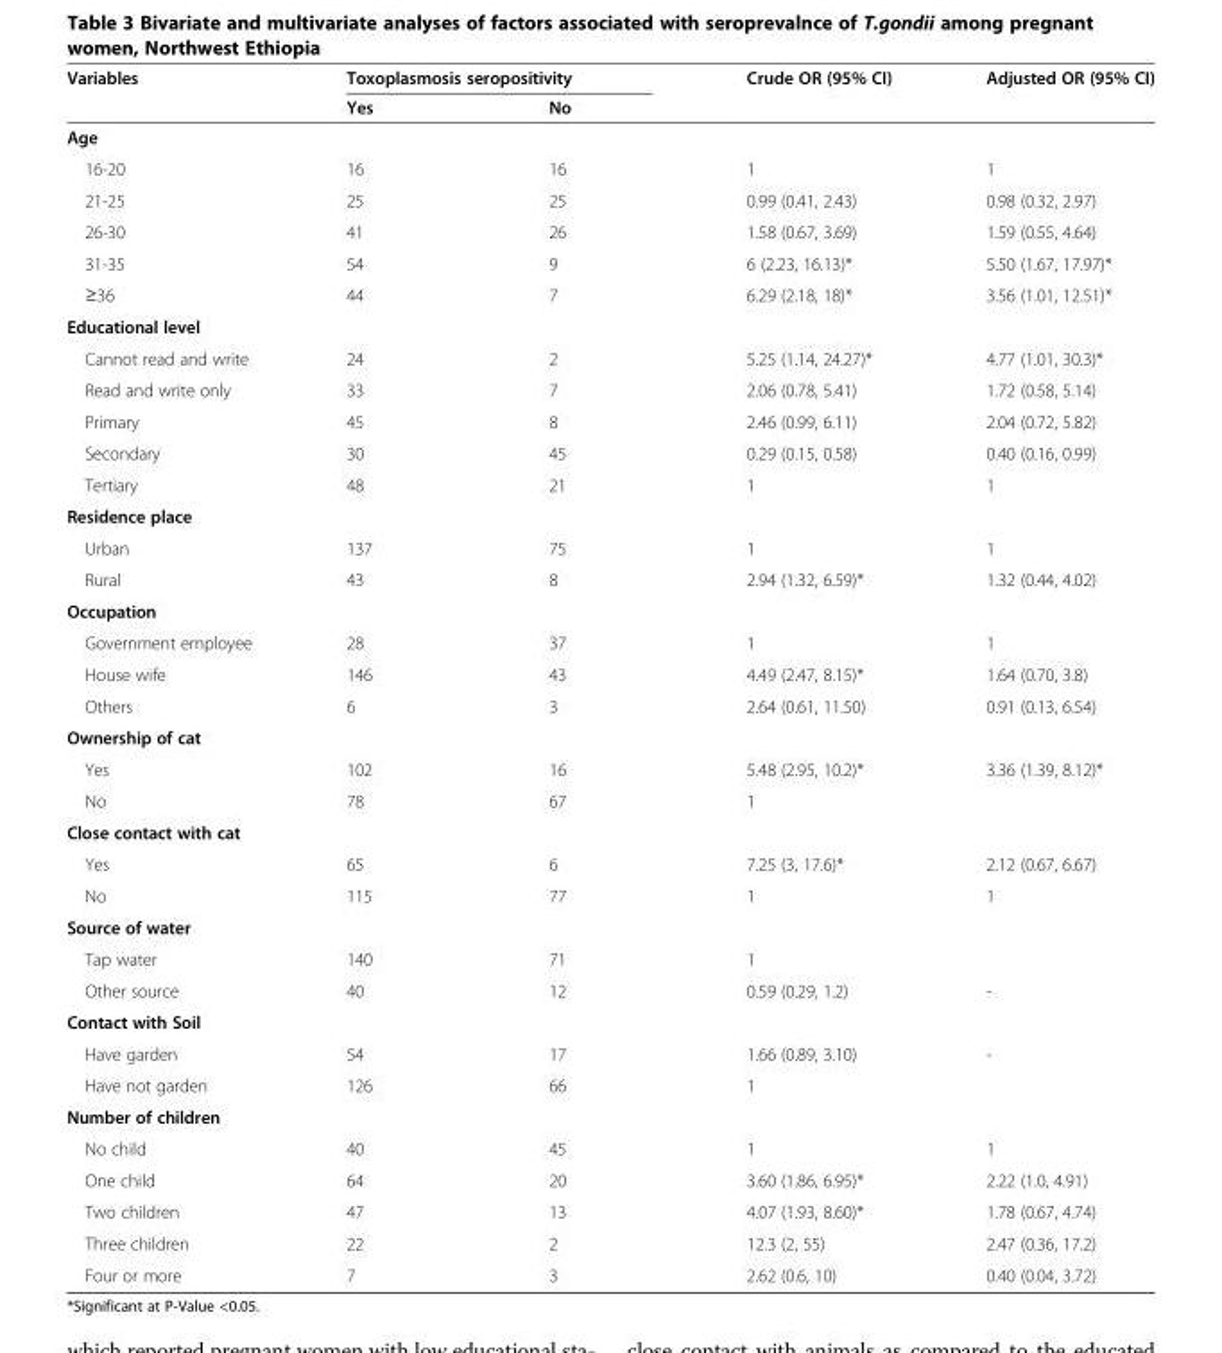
<table><thead><tr><td rowspan="2">Variables</td><td colspan="2">Toxoplasmosis seropositivity</td><td rowspan="2">Crude OR (95% CI)</td><td rowspan="2">Adjusted OR (95% CI)</td></tr><tr><td>Yes</td><td>No</td></tr></thead><tbody><tr><td colspan="5">Age</td></tr><tr><td>16-20</td><td>16</td><td>16</td><td>1</td><td>1</td></tr><tr><td>21-25</td><td>25</td><td>25</td><td>0.99 (0.41, 2.43)</td><td>0.98 (0.32, 2.97)</td></tr><tr><td>26-30</td><td>41</td><td>26</td><td>1.58 (0.67, 3.69)</td><td>1.59 (0.55, 4.64)</td></tr><tr><td>31-35</td><td>54</td><td>9</td><td>6 (2.23, 16.13)*</td><td>5.50 (1.67, 17.97)*</td></tr><tr><td>≥36</td><td>44</td><td>7</td><td>6.29 (2.18, 18)*</td><td>3.56 (1.01, 12.51)*</td></tr><tr><td colspan="5">Educational level</td></tr><tr><td>Cannot read and write</td><td>24</td><td>2</td><td>5.25 (1.14, 24.27)*</td><td>4.77 (1.01, 30.3)*</td></tr><tr><td>Read and write only</td><td>33</td><td>7</td><td>2.06 (0.78, 5.41)</td><td>1.72 (0.58, 5.14)</td></tr><tr><td>Primary</td><td>45</td><td>8</td><td>2.46 (0.99, 6.11)</td><td>2.04 (0.72, 5.82)</td></tr><tr><td>Secondary</td><td>30</td><td>45</td><td>0.29 (0.15, 0.58)</td><td>0.40 (0.16, 0.99)</td></tr><tr><td>Tertiary</td><td>48</td><td>21</td><td>1</td><td>1</td></tr><tr><td colspan="5">Residence place</td></tr><tr><td>Urban</td><td>137</td><td>75</td><td>1</td><td>1</td></tr><tr><td>Rural</td><td>43</td><td>8</td><td>2.94 (1.32, 6.59)*</td><td>1.32 (0.44, 4.02)</td></tr><tr><td colspan="5">Occupation</td></tr><tr><td>Government employee</td><td>28</td><td>37</td><td>1</td><td>1</td></tr><tr><td>House wife</td><td>146</td><td>43</td><td>4.49 (2.47, 8.15)*</td><td>1.64 (0.70, 3.8)</td></tr><tr><td>Others</td><td>6</td><td>3</td><td>2.64 (0.61, 11.50)</td><td>0.91 (0.13, 6.54)</td></tr><tr><td colspan="5">Ownership of cat</td></tr><tr><td>Yes</td><td>102</td><td>16</td><td>5.48 (2.95, 10.2)*</td><td>3.36 (1.39, 8.12)*</td></tr><tr><td>No</td><td>78</td><td>67</td><td>1</td><td></td></tr><tr><td colspan="5">Close contact with cat</td></tr><tr><td>Yes</td><td>65</td><td>6</td><td>7.25 (3, 17.6)*</td><td>2.12 (0.67, 6.67)</td></tr><tr><td>No</td><td>115</td><td>77</td><td>1</td><td>1</td></tr><tr><td colspan="5">Source of water</td></tr><tr><td>Tap water</td><td>140</td><td>71</td><td>1</td><td></td></tr><tr><td>Other source</td><td>40</td><td>12</td><td>0.59 (0.29, 1.2)</td><td>-</td></tr><tr><td colspan="5">Contact with Soil</td></tr><tr><td>Have garden</td><td>54</td><td>17</td><td>1.66 (0.89, 3.10)</td><td>-</td></tr><tr><td>Have not garden</td><td>126</td><td>66</td><td>1</td><td></td></tr><tr><td colspan="5">Number of children</td></tr><tr><td>No child</td><td>40</td><td>45</td><td>1</td><td>1</td></tr><tr><td>One child</td><td>64</td><td>20</td><td>3.60 (1.86, 6.95)*</td><td>2.22 (1.0, 4.91)</td></tr><tr><td>Two children</td><td>47</td><td>13</td><td>4.07 (1.93, 8.60)*</td><td>1.78 (0.67, 4.74)</td></tr><tr><td>Three children</td><td>22</td><td>2</td><td>12.3 (2, 55)</td><td>2.47 (0.36, 17.2)</td></tr><tr><td>Four or more</td><td>7</td><td>3</td><td>2.62 (0.6, 10)</td><td>0.40 (0.04, 3.72)</td></tr></tbody></table>